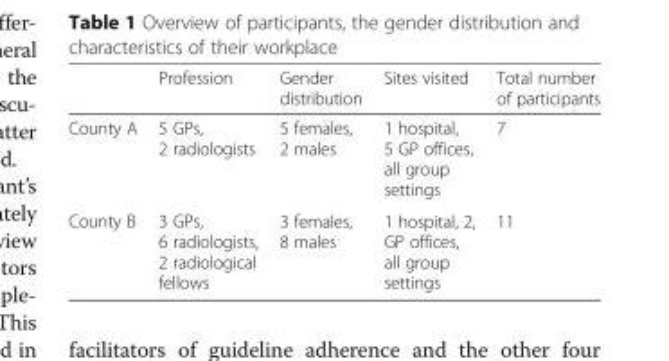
<table><thead><tr><td></td><td>Profession</td><td>Gender distribution</td><td>Sites visited</td><td>Total number of participants</td></tr></thead><tbody><tr><td>County A</td><td>5 GPs, 2 radiologists</td><td>5 females, 2 males</td><td>1 hospital, 5 GP offices, all group settings</td><td>7</td></tr><tr><td>County B</td><td>3 GPs, 6 radiologists, 2 radiological fellows</td><td>3 females, 8 males</td><td>1 hospital, 2, GP offices, all group settings</td><td>11</td></tr></tbody></table>